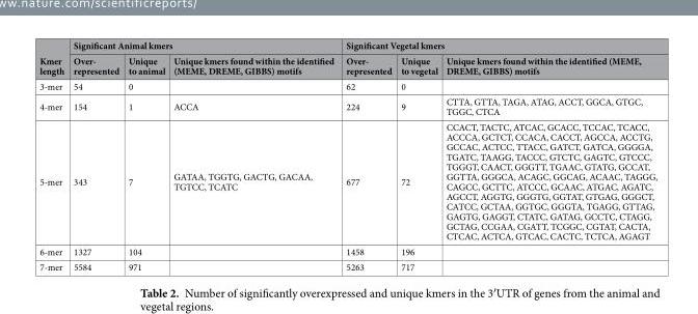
<table><thead><tr><td rowspan="2">Kmer length</td><td colspan="3">Significant Animal kmers</td><td colspan="3">Significant Vegetal kmers</td></tr><tr><td>Over- represented</td><td>Unique to animal</td><td>Unique kmers found within the identified (MEME, DREME, GIBBS) motifs</td><td>Over- represented</td><td>Unique to vegetal</td><td>Unique kmers found within the identified (MEME, DREME, GIBBS) motifs</td></tr></thead><tbody><tr><td>3-mer</td><td>54</td><td>0</td><td></td><td>62</td><td>0</td><td></td></tr><tr><td>4-mer</td><td>154</td><td>1</td><td>ACCA</td><td>224</td><td>9</td><td>CTTA, GTTA, TAGA, ATAG, ACCT, GGCA, GTGC, TGGC, CTCA</td></tr><tr><td>5-mer</td><td>343</td><td>7</td><td>GATAA, TGGTG, GACTG, GACAA, TGTCC, TCATC</td><td>677</td><td>72</td><td>CCACT, TACTC, ATCAC, GCACC, TCCAC, TCACC, ACCCA, GCTCT, CCACA, CACCT, AGCCA, ACCTG, GCCAC, ACTCC, TTACC, GATCT, GATCA, GGGGA, TGATC, TAAGG, TACCC, GTCTC, GAGTC, GTCCC, TGGGT, CAACT, GGGTT, TGAAC, GTATG, GCCAT, GGTTA, GGGCA, ACAGC, GGCAG, ACAAC, TAGGG, CAGCC, GCTTC, ATCCC, GCAAC, ATGAC, AGATC, AGCCT, AGGTG, GGGTG, GGTAT, GTGAG, GGGCT, CATCC, GCTAA, GGTGC, GGGTA, TGAGG, GTTAG, GAGTG, GAGGT, CTATC, GATAG, GCCTC, CTAGG, GCTAG, CCGAA, CGATT, TCGGC, CGTAT, CACTA, CTCAC, ACTCA, GTCAC, CACTC, TCTCA, AGAGT</td></tr><tr><td>6-mer</td><td>1327</td><td>104</td><td></td><td>1458</td><td>196</td><td></td></tr><tr><td>7-mer</td><td>5584</td><td>971</td><td></td><td>5263</td><td>717</td><td></td></tr></tbody></table>